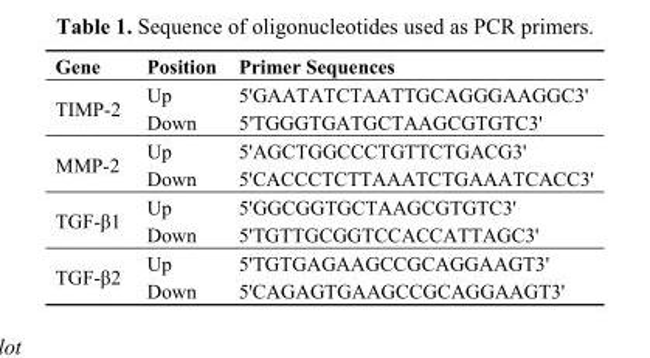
<table><thead><tr><td>Gene</td><td>Position</td><td>Primer Sequences</td></tr></thead><tbody><tr><td rowspan="2">TIMP-2</td><td>Up</td><td>5&#x27;GAATATCTAATTGCAGGGAAGGC3&#x27;</td></tr><tr><td>Down</td><td>5&#x27;TGGGTGATGCTAAGCGTGTC3&#x27;</td></tr><tr><td rowspan="2">MMP-2</td><td>Up</td><td>5&#x27;AGCTGGCCCTGTTCTGACG3&#x27;</td></tr><tr><td>Down</td><td>5&#x27;CACCCTCTTAAATCTGAAATCACC3&#x27;</td></tr><tr><td rowspan="2">TGF-β1</td><td>Up</td><td>5&#x27;GGCGGTGCTAAGCGTGTC3&#x27;</td></tr><tr><td>Down</td><td>5&#x27;TGTTGCGGTCCACCATTAGC3&#x27;</td></tr><tr><td rowspan="2">TGF-β2</td><td>Up</td><td>5&#x27;TGTGAGAAGCCGCAGGAAGT3&#x27;</td></tr><tr><td>Down</td><td>5&#x27;CAGAGTGAAGCCGCAGGAAGT3&#x27;</td></tr></tbody></table>